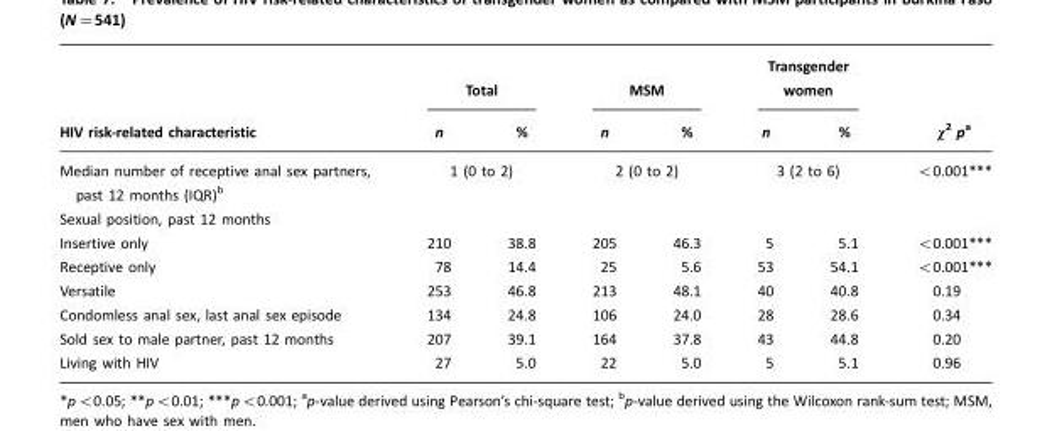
<table><thead><tr><td rowspan="2">HIV risk-related characteristic</td><td colspan="2">Total</td><td colspan="2">MSM</td><td colspan="2">Transgender women</td><td rowspan="2">χ<sup>2</sup> p<sup>a</sup></td></tr><tr><td>n</td><td>%</td><td>n</td><td>%</td><td>n</td><td>%</td></tr></thead><tbody><tr><td>Median number of receptive anal sex partners, past 12 months (IQR)<sup>b</sup></td><td colspan="2">1 (0 to 2)</td><td colspan="2">2 (0 to 2)</td><td colspan="2">3 (2 to 6)</td><td>&lt;0.001***</td></tr><tr><td colspan="8">Sexual position, past 12 months</td></tr><tr><td>Insertive only</td><td>210</td><td>38.8</td><td>205</td><td>46.3</td><td>5</td><td>5.1</td><td>&lt;0.001***</td></tr><tr><td>Receptive only</td><td>78</td><td>14.4</td><td>25</td><td>5.6</td><td>53</td><td>54.1</td><td>&lt;0.001***</td></tr><tr><td>Versatile</td><td>253</td><td>46.8</td><td>213</td><td>48.1</td><td>40</td><td>40.8</td><td>0.19</td></tr><tr><td>Condomless anal sex, last anal sex episode</td><td>134</td><td>24.8</td><td>106</td><td>24.0</td><td>28</td><td>28.6</td><td>0.34</td></tr><tr><td>Sold sex to male partner, past 12 months</td><td>207</td><td>39.1</td><td>164</td><td>37.8</td><td>43</td><td>44.8</td><td>0.20</td></tr><tr><td>Living with HIV</td><td>27</td><td>5.0</td><td>22</td><td>5.0</td><td>5</td><td>5.1</td><td>0.96</td></tr></tbody></table>